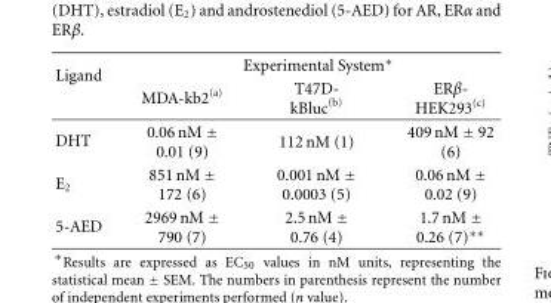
<table><thead><tr><td rowspan="2">Ligand</td><td colspan="3">Experimental System∗</td></tr><tr><td>MDA-kb2<sup>(a)</sup></td><td>T47D- kBluc<sup>(b)</sup></td><td>ERβ- HEK293<sup>(c)</sup></td></tr></thead><tbody><tr><td>DHT</td><td>0.06 nM ± 0.01 (9)</td><td>112 nM (1)</td><td>409 nM ± 92 (6)</td></tr><tr><td>E<sub>2</sub></td><td>851 nM ± 172 (6)</td><td>0.001 nM ± 0.0003 (5)</td><td>0.06 nM ± 0.02 (9)</td></tr><tr><td>5-AED</td><td>2969 nM ± 790 (7)</td><td>2.5 nM ± 0.76 (4)</td><td>1.7 nM ± 0.26 (7)∗∗</td></tr></tbody></table>